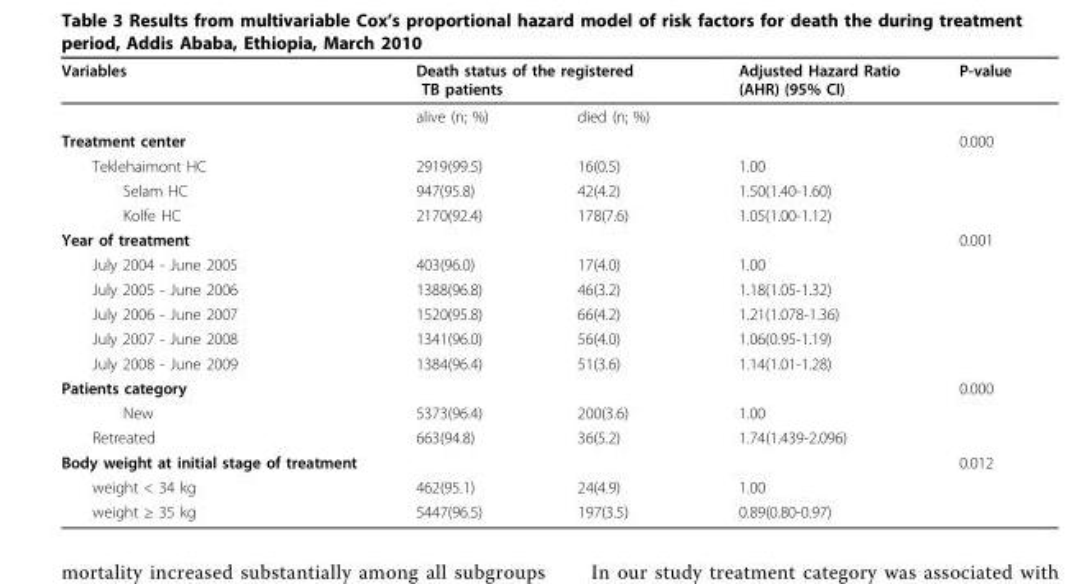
<table><thead><tr><td rowspan="2">Variables</td><td colspan="2">Death status of the registered TB patients</td><td rowspan="2">Adjusted Hazard Ratio (AHR) (95% CI)</td><td rowspan="2">P-value</td></tr><tr><td>alive (n; %)</td><td>died (n; %)</td></tr></thead><tbody><tr><td>Treatment center</td><td></td><td></td><td></td><td>0.000</td></tr><tr><td>Teklehaimont HC</td><td>2919(99.5)</td><td>16(0.5)</td><td>1.00</td><td></td></tr><tr><td>Selam HC</td><td>947(95.8)</td><td>42(4.2)</td><td>1.50(1.40-1.60)</td><td></td></tr><tr><td>Kolfe HC</td><td>2170(92.4)</td><td>178(7.6)</td><td>1.05(1.00-1.12)</td><td></td></tr><tr><td>Year of treatment</td><td></td><td></td><td></td><td>0.001</td></tr><tr><td>July 2004 - June 2005</td><td>403(96.0)</td><td>17(4.0)</td><td>1.00</td><td></td></tr><tr><td>July 2005 - June 2006</td><td>1388(96.8)</td><td>46(3.2)</td><td>1.18(1.05-1.32)</td><td></td></tr><tr><td>July 2006 - June 2007</td><td>1520(95.8)</td><td>66(4.2)</td><td>1.21(1.078-1.36)</td><td></td></tr><tr><td>July 2007 - June 2008</td><td>1341(96.0)</td><td>56(4.0)</td><td>1.06(0.95-1.19)</td><td></td></tr><tr><td>July 2008 - June 2009</td><td>1384(96.4)</td><td>51(3.6)</td><td>1.14(1.01-1.28)</td><td></td></tr><tr><td>Patients category</td><td></td><td></td><td></td><td>0.000</td></tr><tr><td>New</td><td>5373(96.4)</td><td>200(3.6)</td><td>1.00</td><td></td></tr><tr><td>Retreated</td><td>663(94.8)</td><td>36(5.2)</td><td>1.74(1.439-2.096)</td><td></td></tr><tr><td>Body weight at initial stage of treatment</td><td></td><td></td><td></td><td>0.012</td></tr><tr><td>weight &lt; 34 kg</td><td>462(95.1)</td><td>24(4.9)</td><td>1.00</td><td></td></tr><tr><td>weight ≥ 35 kg</td><td>5447(96.5)</td><td>197(3.5)</td><td>0.89(0.80-0.97)</td><td></td></tr></tbody></table>